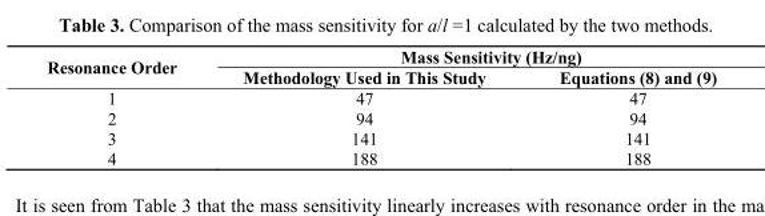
<table><thead><tr><td rowspan="2">Resonance Order</td><td colspan="2">Mass Sensitivity (Hz/ng)</td></tr><tr><td>Methodology Used in This Study</td><td>Equations (8) and (9)</td></tr></thead><tbody><tr><td>1</td><td>47</td><td>47</td></tr><tr><td>2</td><td>94</td><td>94</td></tr><tr><td>3</td><td>141</td><td>141</td></tr><tr><td>4</td><td>188</td><td>188</td></tr></tbody></table>